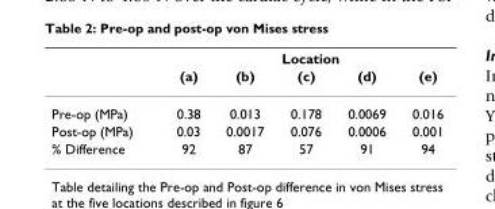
<table><thead><tr><td rowspan="2"></td><td colspan="5">Location</td></tr><tr><td>(a)</td><td>(b)</td><td>(c)</td><td>(d)</td><td>(e)</td></tr></thead><tbody><tr><td>Pre-op (MPa)</td><td>0.38</td><td>0.013</td><td>0.178</td><td>0.0069</td><td>0.016</td></tr><tr><td>Post-op (MPa)</td><td>0.03</td><td>0.0017</td><td>0.076</td><td>0.0006</td><td>0.001</td></tr><tr><td>% Difference</td><td>92</td><td>87</td><td>57</td><td>91</td><td>94</td></tr></tbody></table>